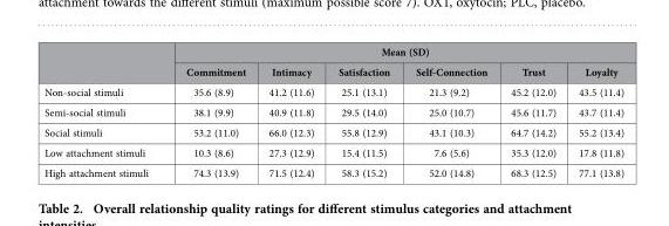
<table><thead><tr><td rowspan="2"></td><td colspan="6">Mean (SD)</td></tr><tr><td>Commitment</td><td>Intimacy</td><td>Satisfaction</td><td>Self-Connection</td><td>Trust</td><td>Loyalty</td></tr></thead><tbody><tr><td>Non-social stimuli</td><td>35.6 (8.9)</td><td>41.2 (11.6)</td><td>25.1 (13.1)</td><td>21.3 (9.2)</td><td>45.2 (12.0)</td><td>43.5 (11.4)</td></tr><tr><td>Semi-social stimuli</td><td>38.1 (9.9)</td><td>40.9 (11.8)</td><td>29.5 (14.0)</td><td>25.0 (10.7)</td><td>45.6 (11.7)</td><td>43.7 (11.4)</td></tr><tr><td>Social stimuli</td><td>53.2 (11.0)</td><td>66.0 (12.3)</td><td>55.8 (12.9)</td><td>43.1 (10.3)</td><td>64.7 (14.2)</td><td>55.2 (13.4)</td></tr><tr><td>Low attachment stimuli</td><td>10.3 (8.6)</td><td>27.3 (12.9)</td><td>15.4 (11.5)</td><td>7.6 (5.6)</td><td>35.3 (12.0)</td><td>17.8 (11.8)</td></tr><tr><td>High attachment stimuli</td><td>74.3 (13.9)</td><td>71.5 (12.4)</td><td>58.3 (15.2)</td><td>52.0 (14.8)</td><td>68.3 (12.5)</td><td>77.1 (13.8)</td></tr></tbody></table>